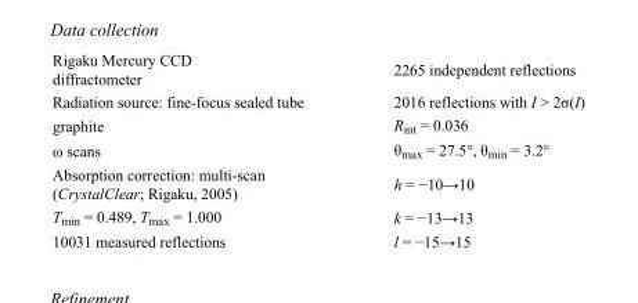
<table><tbody><tr><td>Rigaku Mercury CCD diffractometer</td><td>2265 independent reflections</td></tr><tr><td>Radiation source: fine-focus sealed tube</td><td>2016 reflections with I &gt; 2σ(I)</td></tr><tr><td>graphite</td><td>R<sub>int</sub> = 0.036</td></tr><tr><td>ω scans</td><td>θ<sub>max</sub> = 27.5°, θ<sub>min</sub> = 3.2°</td></tr><tr><td>Absorption correction: multi-scan (CrystalClear; Rigaku, 2005)</td><td>h = −10→10</td></tr><tr><td>T<sub>min</sub> = 0.489, T<sub>max</sub> = 1.000</td><td>k = −13→13</td></tr><tr><td>10031 measured reflections</td><td>l = −15→15</td></tr></tbody></table>